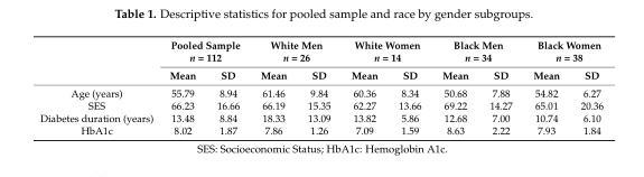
<table><thead><tr><td rowspan="2"></td><td colspan="2">Pooled Sample n = 112</td><td colspan="2">White Men n = 26</td><td colspan="2">White Women n = 14</td><td colspan="2">Black Men n = 34</td><td colspan="2">Black Women n = 38</td></tr><tr><td>Mean</td><td>SD</td><td>Mean</td><td>SD</td><td>Mean</td><td>SD</td><td>Mean</td><td>SD</td><td>Mean</td><td>SD</td></tr></thead><tbody><tr><td>Age (years)</td><td>55.79</td><td>8.94</td><td>61.46</td><td>9.84</td><td>60.36</td><td>8.34</td><td>50.68</td><td>7.88</td><td>54.82</td><td>6.27</td></tr><tr><td>SES</td><td>66.23</td><td>16.66</td><td>66.19</td><td>15.35</td><td>62.27</td><td>13.66</td><td>69.22</td><td>14.27</td><td>65.01</td><td>20.36</td></tr><tr><td>Diabetes duration (years)</td><td>13.48</td><td>8.84</td><td>18.33</td><td>13.09</td><td>13.82</td><td>5.86</td><td>12.68</td><td>7.00</td><td>10.74</td><td>6.10</td></tr><tr><td>HbA1c</td><td>8.02</td><td>1.87</td><td>7.86</td><td>1.26</td><td>7.09</td><td>1.59</td><td>8.63</td><td>2.22</td><td>7.93</td><td>1.84</td></tr></tbody></table>